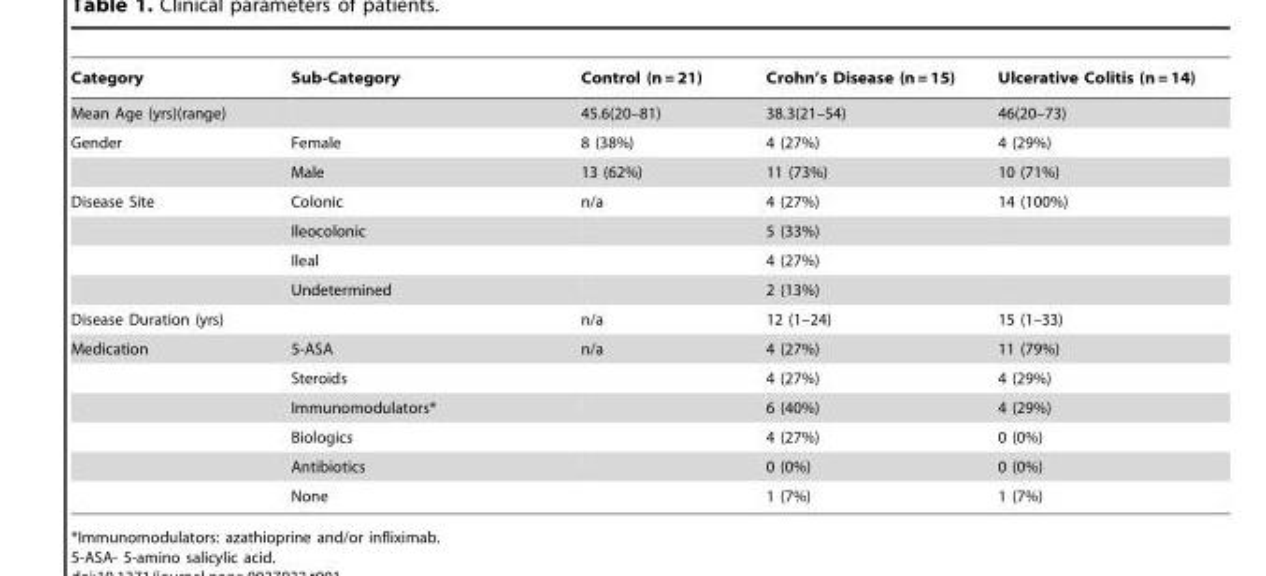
<table><thead><tr><td>Category</td><td>Sub-Category</td><td>Control (n = 21)</td><td>Crohn’s Disease (n = 15)</td><td>Ulcerative Colitis (n = 14)</td></tr></thead><tbody><tr><td>Mean Age (yrs)(range)</td><td></td><td>45.6(20–81)</td><td>38.3(21–54)</td><td>46(20–73)</td></tr><tr><td rowspan="2">Gender</td><td>Female</td><td>8 (38%)</td><td>4 (27%)</td><td>4 (29%)</td></tr><tr><td>Male</td><td>13 (62%)</td><td>11 (73%)</td><td>10 (71%)</td></tr><tr><td rowspan="4">Disease Site</td><td>Colonic</td><td>n/a</td><td>4 (27%)</td><td>14 (100%)</td></tr><tr><td>Ileocolonic</td><td></td><td>5 (33%)</td><td></td></tr><tr><td>Ileal</td><td></td><td>4 (27%)</td><td></td></tr><tr><td>Undetermined</td><td></td><td>2 (13%)</td><td></td></tr><tr><td>Disease Duration (yrs)</td><td></td><td>n/a</td><td>12 (1–24)</td><td>15 (1–33)</td></tr><tr><td rowspan="6">Medication</td><td>5-ASA</td><td>n/a</td><td>4 (27%)</td><td>11 (79%)</td></tr><tr><td>Steroids</td><td></td><td>4 (27%)</td><td>4 (29%)</td></tr><tr><td>Immunomodulators*</td><td></td><td>6 (40%)</td><td>4 (29%)</td></tr><tr><td>Biologics</td><td></td><td>4 (27%)</td><td>0 (0%)</td></tr><tr><td>Antibiotics</td><td></td><td>0 (0%)</td><td>0 (0%)</td></tr><tr><td>None</td><td></td><td>1 (7%)</td><td>1 (7%)</td></tr></tbody></table>